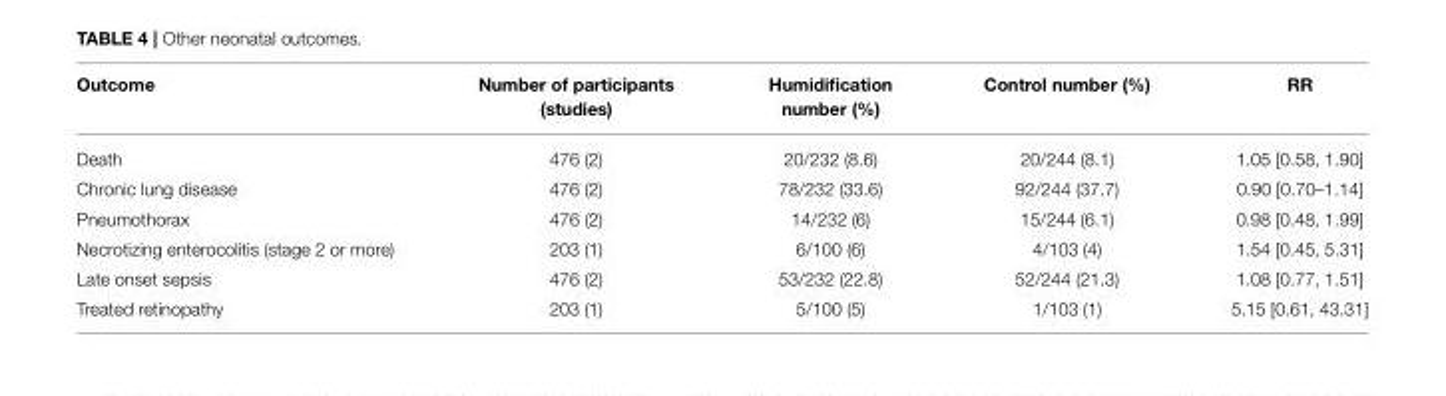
<table><thead><tr><td>Outcome</td><td>Number of participants (studies)</td><td>Humidification number (%)</td><td>Control number (%)</td><td>RR</td></tr></thead><tbody><tr><td>Death</td><td>476 (2)</td><td>20/232 (8.6)</td><td>20/244 (8.1)</td><td>1.05 [0.58, 1.90]</td></tr><tr><td>Chronic lung disease</td><td>476 (2)</td><td>78/232 (33.6)</td><td>92/244 (37.7)</td><td>0.90 [0.70–1.14]</td></tr><tr><td>Pneumothorax</td><td>476 (2)</td><td>14/232 (6)</td><td>15/244 (6.1)</td><td>0.98 [0.48, 1.99]</td></tr><tr><td>Necrotizing enterocolitis (stage 2 or more)</td><td>203 (1)</td><td>6/100 (6)</td><td>4/103 (4)</td><td>1.54 [0.45, 5.31]</td></tr><tr><td>Late onset sepsis</td><td>476 (2)</td><td>53/232 (22.8)</td><td>52/244 (21.3)</td><td>1.08 [0.77, 1.51]</td></tr><tr><td>Treated retinopathy</td><td>203 (1)</td><td>5/100 (5)</td><td>1/103 (1)</td><td>5.15 [0.61, 43.31]</td></tr></tbody></table>